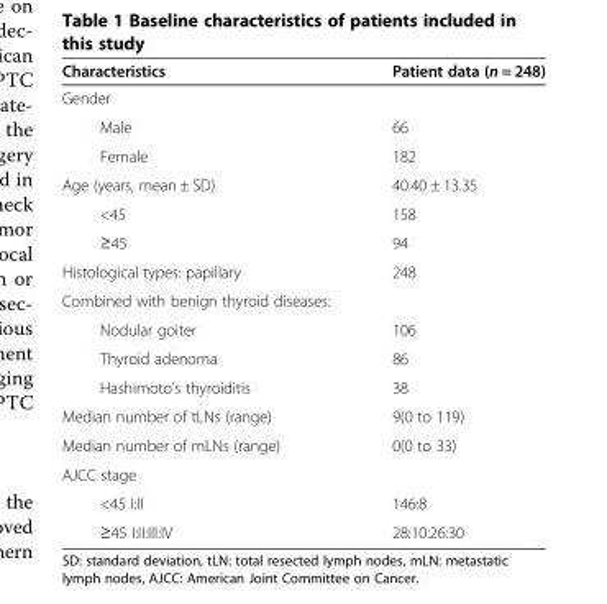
<table><thead><tr><td>Characteristics</td><td>Patient data (n = 248)</td></tr></thead><tbody><tr><td colspan="2">Gender</td></tr><tr><td>Male</td><td>66</td></tr><tr><td>Female</td><td>182</td></tr><tr><td>Age (years, mean ± SD)</td><td>40.40 ± 13.35</td></tr><tr><td>&lt;45</td><td>158</td></tr><tr><td>≥45</td><td>94</td></tr><tr><td>Histological types: papillary</td><td>248</td></tr><tr><td colspan="2">Combined with benign thyroid diseases:</td></tr><tr><td>Nodular goiter</td><td>106</td></tr><tr><td>Thyroid adenoma</td><td>86</td></tr><tr><td>Hashimoto’s thyroiditis</td><td>38</td></tr><tr><td>Median number of tLNs (range)</td><td>9(0 to 119)</td></tr><tr><td>Median number of mLNs (range)</td><td>0(0 to 33)</td></tr><tr><td colspan="2">AJCC stage</td></tr><tr><td>&lt;45 I:II</td><td>146:8</td></tr><tr><td>≥45 I:II:III:IV</td><td>28:10:26:30</td></tr></tbody></table>